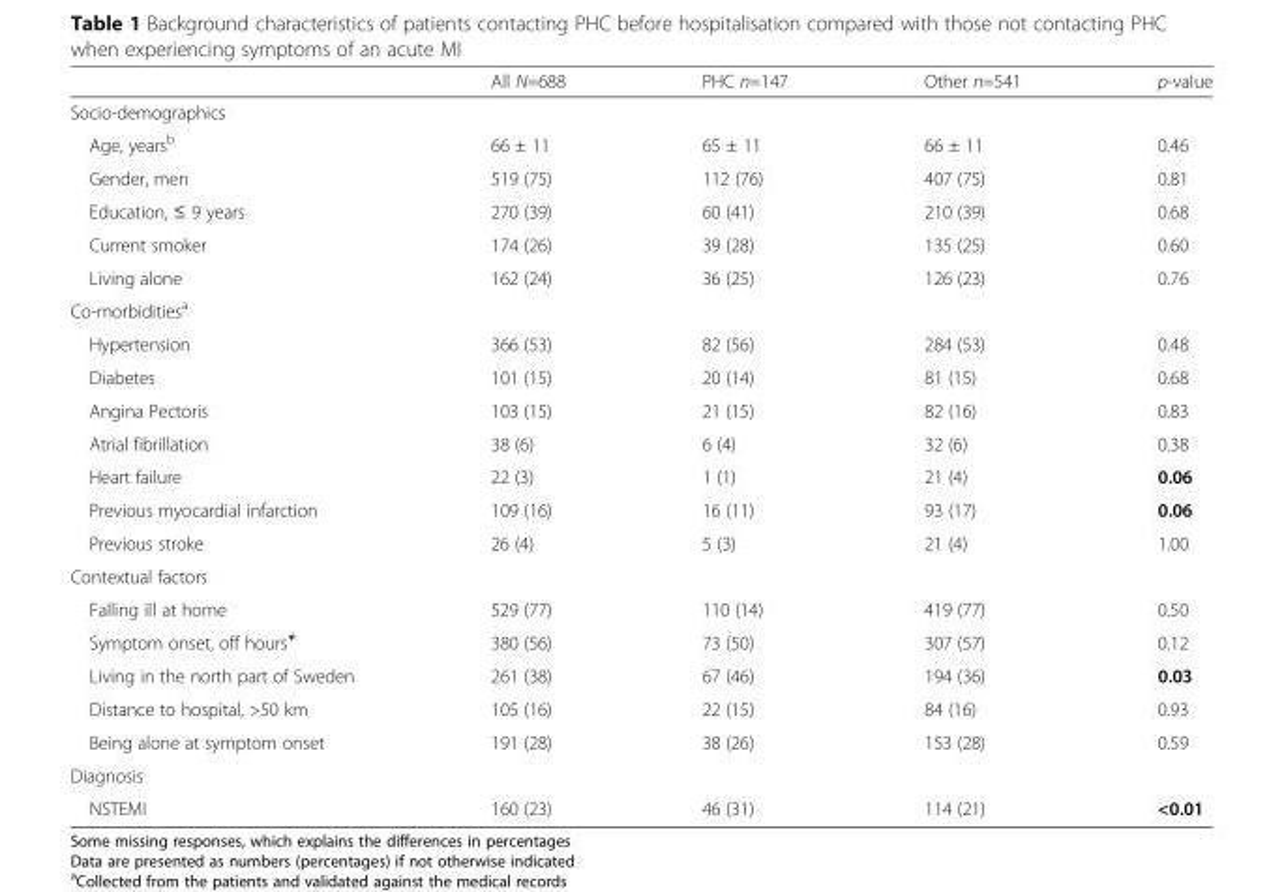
<table><thead><tr><td></td><td>All N=688</td><td>PHC n=147</td><td>Other n=541</td><td>p-value</td></tr></thead><tbody><tr><td colspan="5">Socio-demographics</td></tr><tr><td>Age, years<sup>b</sup></td><td>66 ± 11</td><td>65 ± 11</td><td>66 ± 11</td><td>0.46</td></tr><tr><td>Gender, men</td><td>519 (75)</td><td>112 (76)</td><td>407 (75)</td><td>0.81</td></tr><tr><td>Education, ≤ 9 years</td><td>270 (39)</td><td>60 (41)</td><td>210 (39)</td><td>0.68</td></tr><tr><td>Current smoker</td><td>174 (26)</td><td>39 (28)</td><td>135 (25)</td><td>0.60</td></tr><tr><td>Living alone</td><td>162 (24)</td><td>36 (25)</td><td>126 (23)</td><td>0.76</td></tr><tr><td colspan="5">Co-morbidities<sup>a</sup></td></tr><tr><td>Hypertension</td><td>366 (53)</td><td>82 (56)</td><td>284 (53)</td><td>0.48</td></tr><tr><td>Diabetes</td><td>101 (15)</td><td>20 (14)</td><td>81 (15)</td><td>0.68</td></tr><tr><td>Angina Pectoris</td><td>103 (15)</td><td>21 (15)</td><td>82 (16)</td><td>0.83</td></tr><tr><td>Atrial fibrillation</td><td>38 (6)</td><td>6 (4)</td><td>32 (6)</td><td>0.38</td></tr><tr><td>Heart failure</td><td>22 (3)</td><td>1 (1)</td><td>21 (4)</td><td>0.06</td></tr><tr><td>Previous myocardial infarction</td><td>109 (16)</td><td>16 (11)</td><td>93 (17)</td><td>0.06</td></tr><tr><td>Previous stroke</td><td>26 (4)</td><td>5 (3)</td><td>21 (4)</td><td>1.00</td></tr><tr><td colspan="5">Contextual factors</td></tr><tr><td>Falling ill at home</td><td>529 (77)</td><td>110 (14)</td><td>419 (77)</td><td>0.50</td></tr><tr><td>Symptom onset, off hours<sup>≠</sup></td><td>380 (56)</td><td>73 (50)</td><td>307 (57)</td><td>0.12</td></tr><tr><td>Living in the north part of Sweden</td><td>261 (38)</td><td>67 (46)</td><td>194 (36)</td><td>0.03</td></tr><tr><td>Distance to hospital, &gt;50 km</td><td>105 (16)</td><td>22 (15)</td><td>84 (16)</td><td>0.93</td></tr><tr><td>Being alone at symptom onset</td><td>191 (28)</td><td>38 (26)</td><td>153 (28)</td><td>0.59</td></tr><tr><td colspan="5">Diagnosis</td></tr><tr><td>NSTEMI</td><td>160 (23)</td><td>46 (31)</td><td>114 (21)</td><td>&lt;0.01</td></tr></tbody></table>